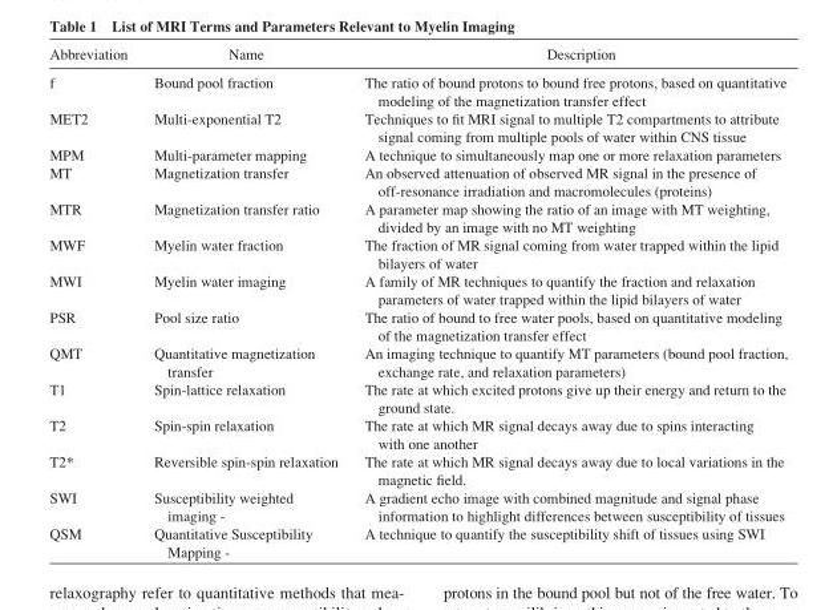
<table><thead><tr><td>Abbreviation</td><td>Name</td><td>Description</td></tr></thead><tbody><tr><td>f</td><td>Bound pool fraction</td><td>The ratio of bound protons to bound free protons, based on quantitative modeling of the magnetization transfer effect</td></tr><tr><td>MET2</td><td>Multi-exponential T2</td><td>Techniques to fit MRI signal to multiple T2 compartments to attribute signal coming from multiple pools of water within CNS tissue</td></tr><tr><td>MPM</td><td>Multi-parameter mapping</td><td>A technique to simultaneously map one or more relaxation parameters</td></tr><tr><td>MT</td><td>Magnetization transfer</td><td>An observed attenuation of observed MR signal in the presence of off-resonance irradiation and macromolecules (proteins)</td></tr><tr><td>MTR</td><td>Magnetization transfer ratio</td><td>A parameter map showing the ratio of an image with MT weighting, divided by an image with no MT weighting</td></tr><tr><td>MWF</td><td>Myelin water fraction</td><td>The fraction of MR signal coming from water trapped within the lipid bilayers of water</td></tr><tr><td>MWI</td><td>Myelin water imaging</td><td>A family of MR techniques to quantify the fraction and relaxation parameters of water trapped within the lipid bilayers of water</td></tr><tr><td>PSR</td><td>Pool size ratio</td><td>The ratio of bound to free water pools, based on quantitative modeling of the magnetization transfer effect</td></tr><tr><td>QMT</td><td>Quantitative magnetization transfer</td><td>An imaging technique to quantify MT parameters (bound pool fraction, exchange rate, and relaxation parameters)</td></tr><tr><td>T1</td><td>Spin-lattice relaxation</td><td>The rate at which excited protons give up their energy and return to the ground state.</td></tr><tr><td>T2</td><td>Spin-spin relaxation</td><td>The rate at which MR signal decays away due to spins interacting with one another</td></tr><tr><td>T2*</td><td>Reversible spin-spin relaxation</td><td>The rate at which MR signal decays away due to local variations in the magnetic field.</td></tr><tr><td>SWI</td><td>Susceptibility weighted imaging -</td><td>A gradient echo image with combined magnitude and signal phase information to highlight differences between susceptibility of tissues</td></tr><tr><td>QSM</td><td>Quantitative Susceptibility Mapping -</td><td>A technique to quantify the susceptibility shift of tissues using SWI</td></tr></tbody></table>